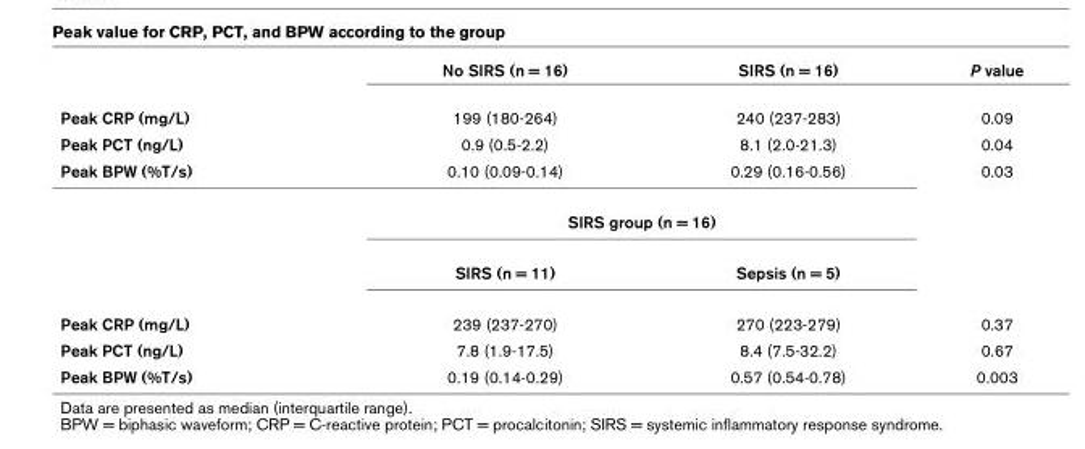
<table><thead><tr><td></td><td>No SIRS (n = 16)</td><td>SIRS (n = 16)</td><td>P value</td></tr></thead><tbody><tr><td>Peak CRP (mg/L)</td><td>199 (180-264)</td><td>240 (237-283)</td><td>0.09</td></tr><tr><td>Peak PCT (ng/L)</td><td>0.9 (0.5-2.2)</td><td>8.1 (2.0-21.3)</td><td>0.04</td></tr><tr><td rowspan="3">Peak BPW (%T/s)</td><td>0.10 (0.09-0.14)</td><td>0.29 (0.16-0.56)</td><td>0.03</td></tr><tr><td colspan="2">SIRS group (n = 16)</td><td></td></tr><tr><td>SIRS (n = 11)</td><td>Sepsis (n = 5)</td><td></td></tr><tr><td>Peak CRP (mg/L)</td><td>239 (237-270)</td><td>270 (223-279)</td><td>0.37</td></tr><tr><td>Peak PCT (ng/L)</td><td>7.8 (1.9-17.5)</td><td>8.4 (7.5-32.2)</td><td>0.67</td></tr><tr><td>Peak BPW (%T/s)</td><td>0.19 (0.14-0.29)</td><td>0.57 (0.54-0.78)</td><td>0.003</td></tr></tbody></table>